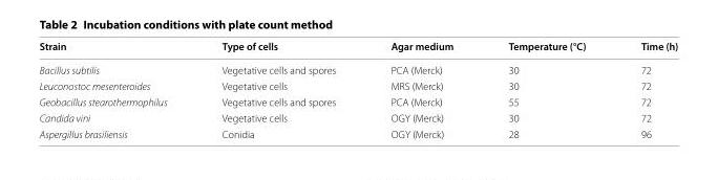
<table><thead><tr><td>Strain</td><td>Type of cells</td><td>Agar medium</td><td>Temperature (°C)</td><td>Time (h)</td></tr></thead><tbody><tr><td>Bacillus subtilis</td><td>Vegetative cells and spores</td><td>PCA (Merck)</td><td>30</td><td>72</td></tr><tr><td>Leuconostoc mesenteroides</td><td>Vegetative cells</td><td>MRS (Merck)</td><td>30</td><td>72</td></tr><tr><td>Geobacillus stearothermophilus</td><td>Vegetative cells and spores</td><td>PCA (Merck)</td><td>55</td><td>72</td></tr><tr><td>Candida vini</td><td>Vegetative cells</td><td>OGY (Merck)</td><td>30</td><td>72</td></tr><tr><td>Aspergillus brasiliensis</td><td>Conidia</td><td>OGY (Merck)</td><td>28</td><td>96</td></tr></tbody></table>